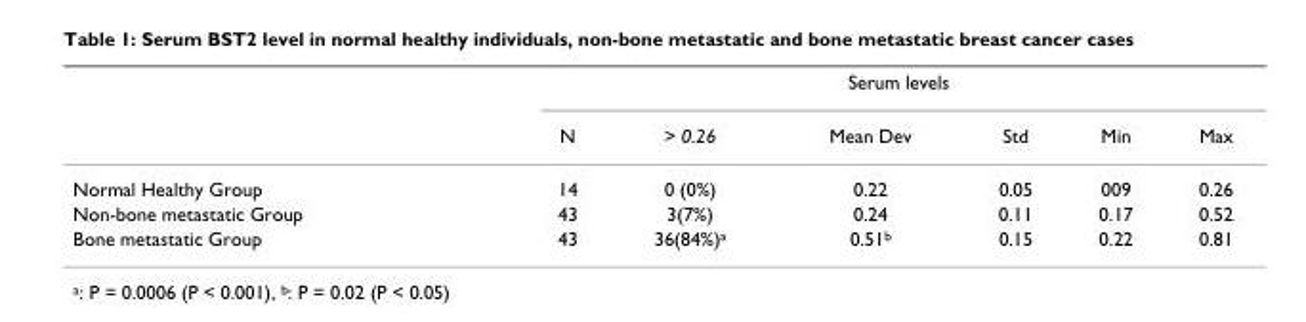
<table><thead><tr><td rowspan="2"></td><td colspan="6">Serum levels</td></tr><tr><td>N</td><td>&gt; 0.26</td><td>Mean Dev</td><td>Std</td><td>Min</td><td>Max</td></tr></thead><tbody><tr><td>Normal Healthy Group</td><td>14</td><td>0 (0%)</td><td>0.22</td><td>0.05</td><td>009</td><td>0.26</td></tr><tr><td>Non-bone metastatic Group</td><td>43</td><td>3(7%)</td><td>0.24</td><td>0.11</td><td>0.17</td><td>0.52</td></tr><tr><td>Bone metastatic Group</td><td>43</td><td>36(84%)<sup>a</sup></td><td>0.51<sup>b</sup></td><td>0.15</td><td>0.22</td><td>0.81</td></tr></tbody></table>